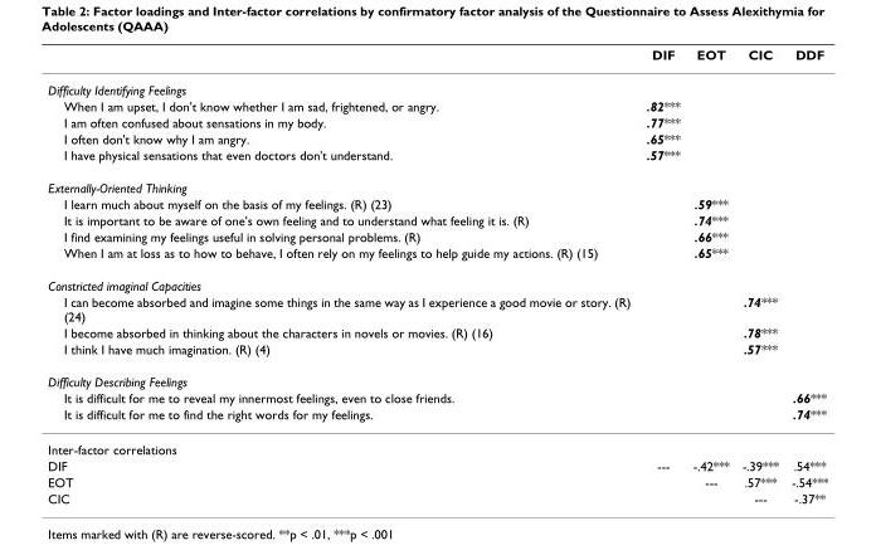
<table><thead><tr><td></td><td>DIF</td><td>EOT</td><td>CIC</td><td>DDF</td></tr></thead><tbody><tr><td colspan="5">Difficulty Identifying Feelings</td></tr><tr><td>When I am upset, I don&#x27;t know whether I am sad, frightened, or angry.</td><td>.82***</td><td></td><td></td><td></td></tr><tr><td>I am often confused about sensations in my body.</td><td>.77***</td><td></td><td></td><td></td></tr><tr><td>I often don&#x27;t know why I am angry.</td><td>.65***</td><td></td><td></td><td></td></tr><tr><td>I have physical sensations that even doctors don&#x27;t understand.</td><td>.57***</td><td></td><td></td><td></td></tr><tr><td colspan="5">Externally-Oriented Thinking</td></tr><tr><td>I learn much about myself on the basis of my feelings. (R) (23)</td><td></td><td>.59***</td><td></td><td></td></tr><tr><td>It is important to be aware of one&#x27;s own feeling and to understand what feeling it is. (R)</td><td></td><td>.74***</td><td></td><td></td></tr><tr><td>I find examining my feelings useful in solving personal problems. (R)</td><td></td><td>.66***</td><td></td><td></td></tr><tr><td>When I am at loss as to how to behave, I often rely on my feelings to help guide my actions. (R) (15)</td><td></td><td>.65***</td><td></td><td></td></tr><tr><td colspan="5">Constricted imaginal Capacities</td></tr><tr><td>I can become absorbed and imagine some things in the same way as I experience a good movie or story. (R) (24)</td><td></td><td></td><td>.74***</td><td></td></tr><tr><td>I become absorbed in thinking about the characters in novels or movies. (R) (16)</td><td></td><td></td><td>.78***</td><td></td></tr><tr><td>I think I have much imagination. (R) (4)</td><td></td><td></td><td>.57***</td><td></td></tr><tr><td colspan="5">Difficulty Describing Feelings</td></tr><tr><td>It is difficult for me to reveal my innermost feelings, even to close friends.</td><td></td><td></td><td></td><td>.66***</td></tr><tr><td>It is difficult for me to find the right words for my feelings.</td><td></td><td></td><td></td><td>.74***</td></tr><tr><td colspan="5">Inter-factor correlations</td></tr><tr><td>DIF</td><td>---</td><td>-.42***</td><td>-.39***</td><td>.54***</td></tr><tr><td>EOT</td><td></td><td>---</td><td>.57***</td><td>-.54***</td></tr><tr><td>CIC</td><td></td><td></td><td>---</td><td>-.37**</td></tr></tbody></table>